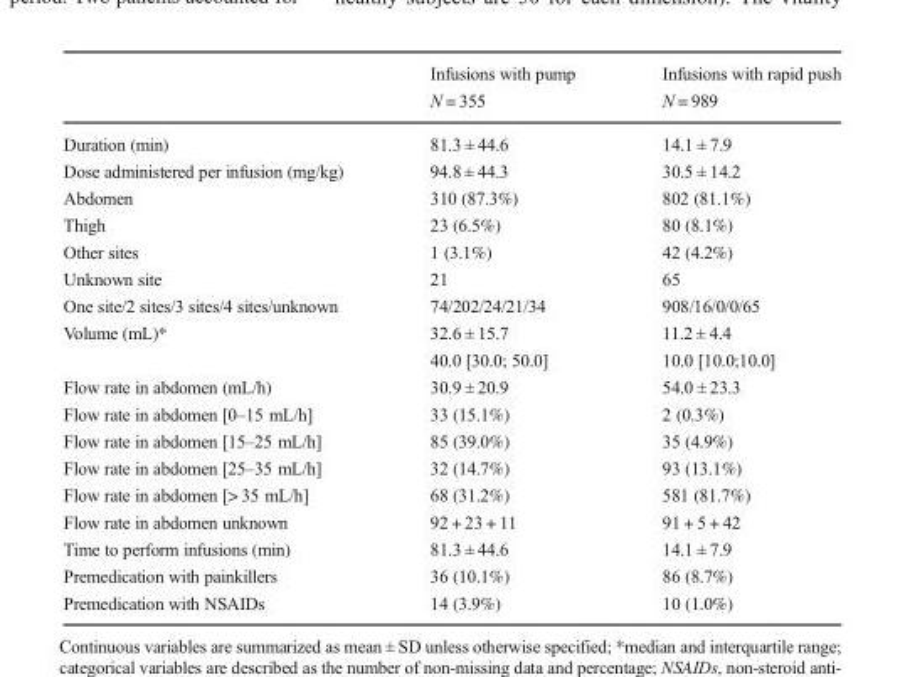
<table><thead><tr><td></td><td>Infusions with pump N = 355</td><td>Infusions with rapid push N = 989</td></tr></thead><tbody><tr><td>Duration (min)</td><td>81.3 ± 44.6</td><td>14.1 ± 7.9</td></tr><tr><td>Dose administered per infusion (mg/kg)</td><td>94.8 ± 44.3</td><td>30.5 ± 14.2</td></tr><tr><td>Abdomen</td><td>310 (87.3%)</td><td>802 (81.1%)</td></tr><tr><td>Thigh</td><td>23 (6.5%)</td><td>80 (8.1%)</td></tr><tr><td>Other sites</td><td>1 (3.1%)</td><td>42 (4.2%)</td></tr><tr><td>Unknown site</td><td>21</td><td>65</td></tr><tr><td>One site/2 sites/3 sites/4 sites/unknown</td><td>74/202/24/21/34</td><td>908/16/0/0/65</td></tr><tr><td>Volume (mL)*</td><td>32.6 ± 15.7 40.0 [30.0; 50.0]</td><td>11.2 ± 4.4 10.0 [10.0;10.0]</td></tr><tr><td>Flow rate in abdomen (mL/h)</td><td>30.9 ± 20.9</td><td>54.0 ± 23.3</td></tr><tr><td>Flow rate in abdomen [0–15 mL/h]</td><td>33 (15.1%)</td><td>2 (0.3%)</td></tr><tr><td>Flow rate in abdomen [15–25 mL/h]</td><td>85 (39.0%)</td><td>35 (4.9%)</td></tr><tr><td>Flow rate in abdomen [25–35 mL/h]</td><td>32 (14.7%)</td><td>93 (13.1%)</td></tr><tr><td>Flow rate in abdomen [&gt; 35 mL/h]</td><td>68 (31.2%)</td><td>581 (81.7%)</td></tr><tr><td>Flow rate in abdomen unknown</td><td>92 + 23 + 11</td><td>91 + 5 + 42</td></tr><tr><td>Time to perform infusions (min)</td><td>81.3 ± 44.6</td><td>14.1 ± 7.9</td></tr><tr><td>Premedication with painkillers</td><td>36 (10.1%)</td><td>86 (8.7%)</td></tr><tr><td>Premedication with NSAIDs</td><td>14 (3.9%)</td><td>10 (1.0%)</td></tr></tbody></table>